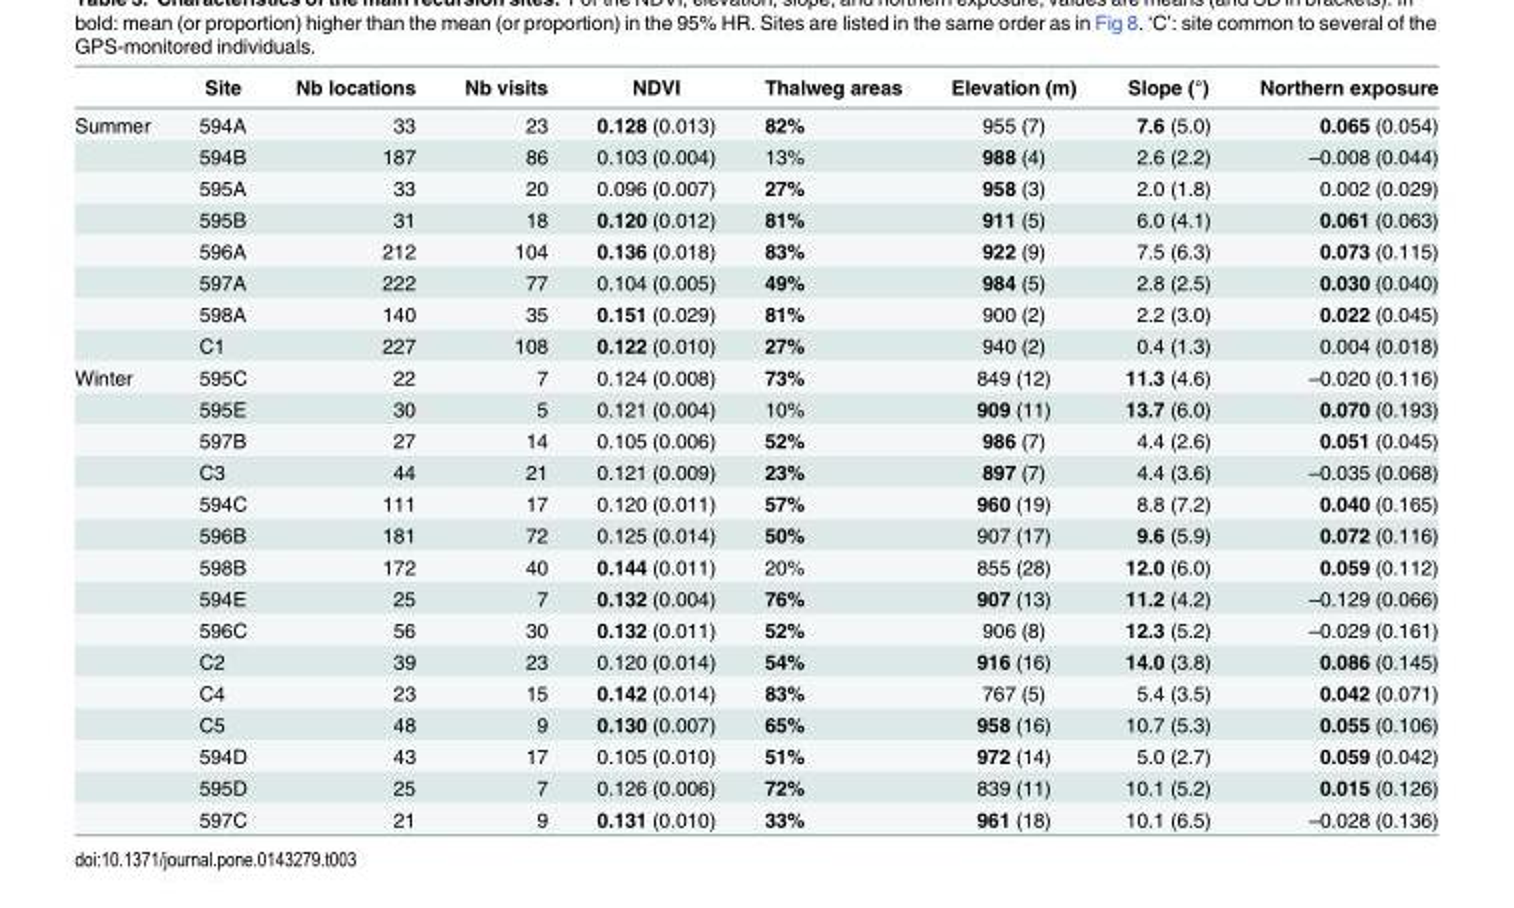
<table><thead><tr><td></td><td>Site</td><td>Nb locations</td><td>Nb visits</td><td>NDVI</td><td>Thalweg areas</td><td>Elevation (m)</td><td>Slope (°)</td><td>Northern exposure</td></tr></thead><tbody><tr><td rowspan="8">Summer</td><td>594A</td><td>33</td><td>23</td><td>0.128 (0.013)</td><td>82%</td><td>955 (7)</td><td>7.6 (5.0)</td><td>0.065 (0.054)</td></tr><tr><td>594B</td><td>187</td><td>86</td><td>0.103 (0.004)</td><td>13%</td><td>988 (4)</td><td>2.6 (2.2)</td><td>–0.008 (0.044)</td></tr><tr><td>595A</td><td>33</td><td>20</td><td>0.096 (0.007)</td><td>27%</td><td>958 (3)</td><td>2.0 (1.8)</td><td>0.002 (0.029)</td></tr><tr><td>595B</td><td>31</td><td>18</td><td>0.120 (0.012)</td><td>81%</td><td>911 (5)</td><td>6.0 (4.1)</td><td>0.061 (0.063)</td></tr><tr><td>596A</td><td>212</td><td>104</td><td>0.136 (0.018)</td><td>83%</td><td>922 (9)</td><td>7.5 (6.3)</td><td>0.073 (0.115)</td></tr><tr><td>597A</td><td>222</td><td>77</td><td>0.104 (0.005)</td><td>49%</td><td>984 (5)</td><td>2.8 (2.5)</td><td>0.030 (0.040)</td></tr><tr><td>598A</td><td>140</td><td>35</td><td>0.151 (0.029)</td><td>81%</td><td>900 (2)</td><td>2.2 (3.0)</td><td>0.022 (0.045)</td></tr><tr><td>C1</td><td>227</td><td>108</td><td>0.122 (0.010)</td><td>27%</td><td>940 (2)</td><td>0.4 (1.3)</td><td>0.004 (0.018)</td></tr><tr><td rowspan="15">Winter</td><td>595C</td><td>22</td><td>7</td><td>0.124 (0.008)</td><td>73%</td><td>849 (12)</td><td>11.3 (4.6)</td><td>–0.020 (0.116)</td></tr><tr><td>595E</td><td>30</td><td>5</td><td>0.121 (0.004)</td><td>10%</td><td>909 (11)</td><td>13.7 (6.0)</td><td>0.070 (0.193)</td></tr><tr><td>597B</td><td>27</td><td>14</td><td>0.105 (0.006)</td><td>52%</td><td>986 (7)</td><td>4.4 (2.6)</td><td>0.051 (0.045)</td></tr><tr><td>C3</td><td>44</td><td>21</td><td>0.121 (0.009)</td><td>23%</td><td>897 (7)</td><td>4.4 (3.6)</td><td>–0.035 (0.068)</td></tr><tr><td>594C</td><td>111</td><td>17</td><td>0.120 (0.011)</td><td>57%</td><td>960 (19)</td><td>8.8 (7.2)</td><td>0.040 (0.165)</td></tr><tr><td>596B</td><td>181</td><td>72</td><td>0.125 (0.014)</td><td>50%</td><td>907 (17)</td><td>9.6 (5.9)</td><td>0.072 (0.116)</td></tr><tr><td>598B</td><td>172</td><td>40</td><td>0.144 (0.011)</td><td>20%</td><td>855 (28)</td><td>12.0 (6.0)</td><td>0.059 (0.112)</td></tr><tr><td>594E</td><td>25</td><td>7</td><td>0.132 (0.004)</td><td>76%</td><td>907 (13)</td><td>11.2 (4.2)</td><td>–0.129 (0.066)</td></tr><tr><td>596C</td><td>56</td><td>30</td><td>0.132 (0.011)</td><td>52%</td><td>906 (8)</td><td>12.3 (5.2)</td><td>–0.029 (0.161)</td></tr><tr><td>C2</td><td>39</td><td>23</td><td>0.120 (0.014)</td><td>54%</td><td>916 (16)</td><td>14.0 (3.8)</td><td>0.086 (0.145)</td></tr><tr><td>C4</td><td>23</td><td>15</td><td>0.142 (0.014)</td><td>83%</td><td>767 (5)</td><td>5.4 (3.5)</td><td>0.042 (0.071)</td></tr><tr><td>C5</td><td>48</td><td>9</td><td>0.130 (0.007)</td><td>65%</td><td>958 (16)</td><td>10.7 (5.3)</td><td>0.055 (0.106)</td></tr><tr><td>594D</td><td>43</td><td>17</td><td>0.105 (0.010)</td><td>51%</td><td>972 (14)</td><td>5.0 (2.7)</td><td>0.059 (0.042)</td></tr><tr><td>595D</td><td>25</td><td>7</td><td>0.126 (0.006)</td><td>72%</td><td>839 (11)</td><td>10.1 (5.2)</td><td>0.015 (0.126)</td></tr><tr><td>597C</td><td>21</td><td>9</td><td>0.131 (0.010)</td><td>33%</td><td>961 (18)</td><td>10.1 (6.5)</td><td>–0.028 (0.136)</td></tr></tbody></table>